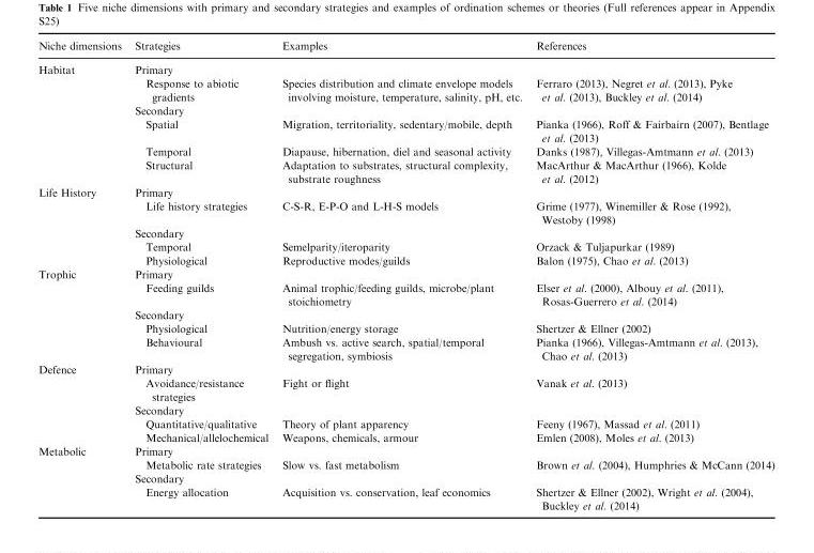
<table><thead><tr><td>Niche dimensions</td><td>Strategies</td><td>Examples</td><td>References</td></tr></thead><tbody><tr><td rowspan="6">Habitat</td><td colspan="3">Primary</td></tr><tr><td>Response to abiotic gradients</td><td>Species distribution and climate envelope models involving moisture, temperature, salinity, pH, etc.</td><td>Ferraro (2013), Negret et al. (2013), Pyke et al. (2013), Buckley et al. (2014)</td></tr><tr><td colspan="3">Secondary</td></tr><tr><td>Spatial</td><td>Migration, territoriality, sedentary/mobile, depth</td><td>Pianka (1966), Roff &amp; Fairbairn (2007), Bentlage et al. (2013)</td></tr><tr><td>Temporal</td><td>Diapause, hibernation, diel and seasonal activity</td><td>Danks (1987), Villegas-Amtmann et al. (2013)</td></tr><tr><td>Structural</td><td>Adaptation to substrates, structural complexity, substrate roughness</td><td>MacArthur &amp; MacArthur (1966), Kolde et al. (2012)</td></tr><tr><td rowspan="5">Life History</td><td colspan="3">Primary</td></tr><tr><td>Life history strategies</td><td>C-S-R, E-P-O and L-H-S models</td><td>Grime (1977), Winemiller &amp; Rose (1992), Westoby (1998)</td></tr><tr><td colspan="3">Secondary</td></tr><tr><td>Temporal</td><td>Semelparity/iteroparity</td><td>Orzack &amp; Tuljapurkar (1989)</td></tr><tr><td>Physiological</td><td>Reproductive modes/guilds</td><td>Balon (1975), Chao et al. (2013)</td></tr><tr><td rowspan="5">Trophic</td><td colspan="3">Primary</td></tr><tr><td>Feeding guilds</td><td>Animal trophic/feeding guilds, microbe/plant stoichiometry</td><td>Elser et al. (2000), Albouy et al. (2011), Rosas-Guerrero et al. (2014)</td></tr><tr><td colspan="3">Secondary</td></tr><tr><td>Physiological</td><td>Nutrition/energy storage</td><td>Shertzer &amp; Ellner (2002)</td></tr><tr><td>Behavioural</td><td>Ambush vs. active search, spatial/temporal segregation, symbiosis</td><td>Pianka (1966), Villegas-Amtmann et al. (2013), Chao et al. (2013)</td></tr><tr><td rowspan="5">Defence</td><td colspan="3">Primary</td></tr><tr><td>Avoidance/resistance strategies</td><td>Fight or flight</td><td>Vanak et al. (2013)</td></tr><tr><td colspan="3">Secondary</td></tr><tr><td>Quantitative/qualitative</td><td>Theory of plant apparency</td><td>Feeny (1967), Massad et al. (2011)</td></tr><tr><td>Mechanical/allelochemical</td><td>Weapons, chemicals, armour</td><td>Emlen (2008), Moles et al. (2013)</td></tr><tr><td rowspan="4">Metabolic</td><td colspan="3">Primary</td></tr><tr><td>Metabolic rate strategies</td><td>Slow vs. fast metabolism</td><td>Brown et al. (2004), Humphries &amp; McCann (2014)</td></tr><tr><td colspan="3">Secondary</td></tr><tr><td>Energy allocation</td><td>Acquisition vs. conservation, leaf economics</td><td>Shertzer &amp; Ellner (2002), Wright et al. (2004), Buckley et al. (2014)</td></tr></tbody></table>